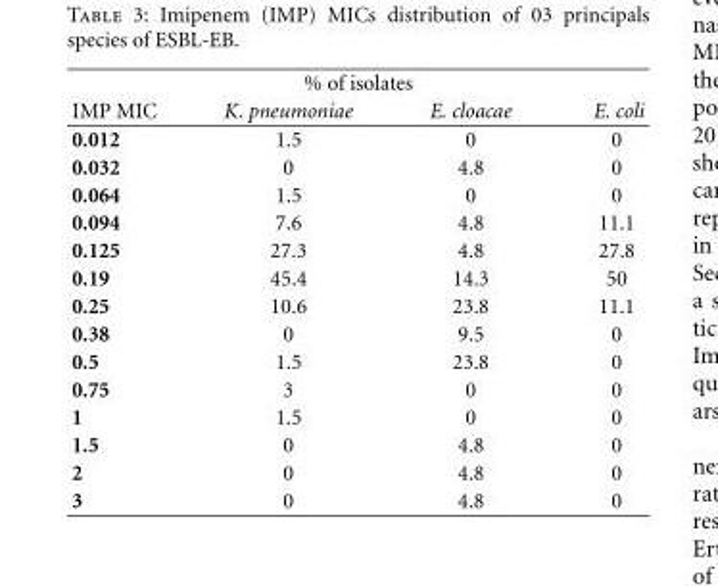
<table><thead><tr><td colspan="4">% of isolates</td></tr><tr><td>IMP MIC</td><td>K. pneumoniae</td><td>E. cloacae</td><td>E. coli</td></tr></thead><tbody><tr><td>0.012</td><td>1.5</td><td>0</td><td>0</td></tr><tr><td>0.032</td><td>0</td><td>4.8</td><td>0</td></tr><tr><td>0.064</td><td>1.5</td><td>0</td><td>0</td></tr><tr><td>0.094</td><td>7.6</td><td>4.8</td><td>11.1</td></tr><tr><td>0.125</td><td>27.3</td><td>4.8</td><td>27.8</td></tr><tr><td>0.19</td><td>45.4</td><td>14.3</td><td>50</td></tr><tr><td>0.25</td><td>10.6</td><td>23.8</td><td>11.1</td></tr><tr><td>0.38</td><td>0</td><td>9.5</td><td>0</td></tr><tr><td>0.5</td><td>1.5</td><td>23.8</td><td>0</td></tr><tr><td>0.75</td><td>3</td><td>0</td><td>0</td></tr><tr><td>1</td><td>1.5</td><td>0</td><td>0</td></tr><tr><td>1.5</td><td>0</td><td>4.8</td><td>0</td></tr><tr><td>2</td><td>0</td><td>4.8</td><td>0</td></tr><tr><td>3</td><td>0</td><td>4.8</td><td>0</td></tr></tbody></table>